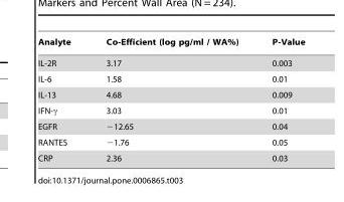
<table><thead><tr><td>Analyte</td><td>Co-Efficient (log pg/ml / WA%)</td><td>P-Value</td></tr></thead><tbody><tr><td>IL-2R</td><td>3.17</td><td>0.003</td></tr><tr><td>IL-6</td><td>1.58</td><td>0.01</td></tr><tr><td>IL-13</td><td>4.68</td><td>0.009</td></tr><tr><td>IFN-γ</td><td>3.03</td><td>0.01</td></tr><tr><td>EGFR</td><td>−12.65</td><td>0.04</td></tr><tr><td>RANTES</td><td>−1.76</td><td>0.05</td></tr><tr><td>CRP</td><td>2.36</td><td>0.03</td></tr></tbody></table>